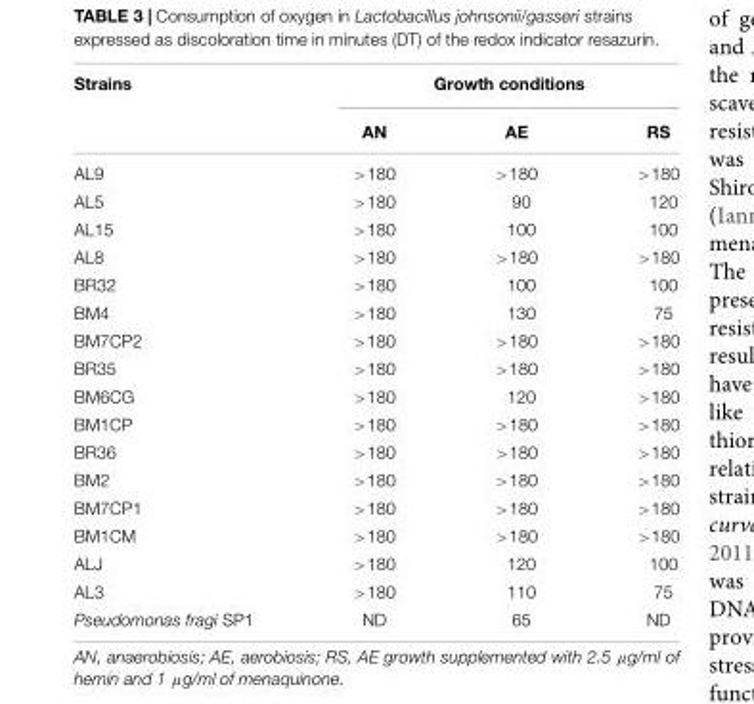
<table><thead><tr><td rowspan="2">Strains</td><td colspan="3">Growth conditions</td></tr><tr><td>AN</td><td>AE</td><td>RS</td></tr></thead><tbody><tr><td>AL9</td><td>&gt;180</td><td>&gt;180</td><td>&gt;180</td></tr><tr><td>AL5</td><td>&gt;180</td><td>90</td><td>120</td></tr><tr><td>AL15</td><td>&gt;180</td><td>100</td><td>100</td></tr><tr><td>AL8</td><td>&gt;180</td><td>&gt;180</td><td>&gt;180</td></tr><tr><td>BR32</td><td>&gt;180</td><td>100</td><td>100</td></tr><tr><td>BM4</td><td>&gt;180</td><td>130</td><td>75</td></tr><tr><td>BM7CP2</td><td>&gt;180</td><td>&gt;180</td><td>&gt;180</td></tr><tr><td>BR35</td><td>&gt;180</td><td>&gt;180</td><td>&gt;180</td></tr><tr><td>BM6CG</td><td>&gt;180</td><td>120</td><td>&gt;180</td></tr><tr><td>BM1CP</td><td>&gt;180</td><td>&gt;180</td><td>&gt;180</td></tr><tr><td>BR36</td><td>&gt;180</td><td>&gt;180</td><td>&gt;180</td></tr><tr><td>BM2</td><td>&gt;180</td><td>&gt;180</td><td>&gt;180</td></tr><tr><td>BM7CP1</td><td>&gt;180</td><td>&gt;180</td><td>&gt;180</td></tr><tr><td>BM1CM</td><td>&gt;180</td><td>&gt;180</td><td>&gt;180</td></tr><tr><td>ALJ</td><td>&gt;180</td><td>120</td><td>100</td></tr><tr><td>AL3</td><td>&gt;180</td><td>110</td><td>75</td></tr><tr><td>Pseudomonas fragi SP1</td><td>ND</td><td>65</td><td>ND</td></tr></tbody></table>